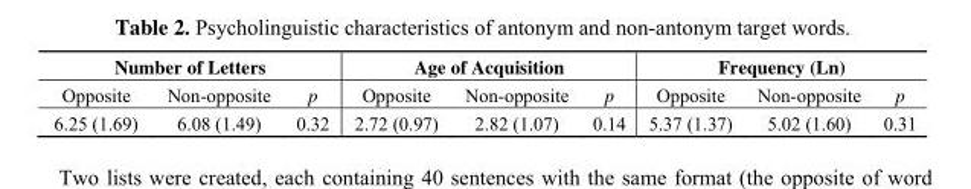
<table><thead><tr><td colspan="3">Number of Letters</td><td colspan="3">Age of Acquisition</td><td colspan="3">Frequency (Ln)</td></tr><tr><td>Opposite</td><td>Non-opposite</td><td>p</td><td>Opposite</td><td>Non-opposite</td><td>p</td><td>Opposite</td><td>Non-opposite</td><td>p</td></tr></thead><tbody><tr><td>6.25 (1.69)</td><td>6.08 (1.49)</td><td>0.32</td><td>2.72 (0.97)</td><td>2.82 (1.07)</td><td>0.14</td><td>5.37 (1.37)</td><td>5.02 (1.60)</td><td>0.31</td></tr></tbody></table>